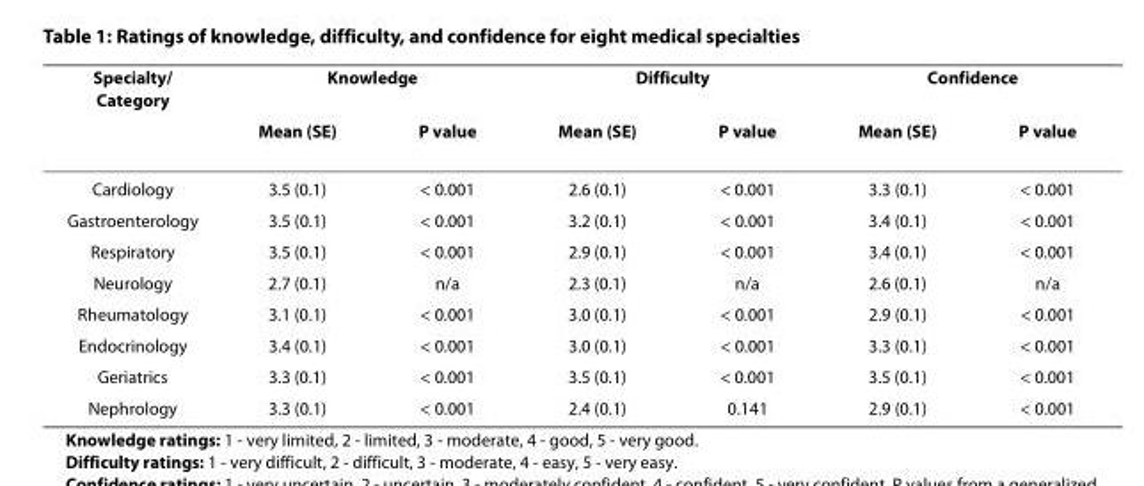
<table><thead><tr><td rowspan="2">Specialty/ Category</td><td colspan="2">Knowledge</td><td colspan="2">Difficulty</td><td colspan="2">Confidence</td></tr><tr><td>Mean (SE)</td><td>P value</td><td>Mean (SE)</td><td>P value</td><td>Mean (SE)</td><td>P value</td></tr></thead><tbody><tr><td>Cardiology</td><td>3.5 (0.1)</td><td>&lt; 0.001</td><td>2.6 (0.1)</td><td>&lt; 0.001</td><td>3.3 (0.1)</td><td>&lt; 0.001</td></tr><tr><td>Gastroenterology</td><td>3.5 (0.1)</td><td>&lt; 0.001</td><td>3.2 (0.1)</td><td>&lt; 0.001</td><td>3.4 (0.1)</td><td>&lt; 0.001</td></tr><tr><td>Respiratory</td><td>3.5 (0.1)</td><td>&lt; 0.001</td><td>2.9 (0.1)</td><td>&lt; 0.001</td><td>3.4 (0.1)</td><td>&lt; 0.001</td></tr><tr><td>Neurology</td><td>2.7 (0.1)</td><td>n/a</td><td>2.3 (0.1)</td><td>n/a</td><td>2.6 (0.1)</td><td>n/a</td></tr><tr><td>Rheumatology</td><td>3.1 (0.1)</td><td>&lt; 0.001</td><td>3.0 (0.1)</td><td>&lt; 0.001</td><td>2.9 (0.1)</td><td>&lt; 0.001</td></tr><tr><td>Endocrinology</td><td>3.4 (0.1)</td><td>&lt; 0.001</td><td>3.0 (0.1)</td><td>&lt; 0.001</td><td>3.3 (0.1)</td><td>&lt; 0.001</td></tr><tr><td>Geriatrics</td><td>3.3 (0.1)</td><td>&lt; 0.001</td><td>3.5 (0.1)</td><td>&lt; 0.001</td><td>3.5 (0.1)</td><td>&lt; 0.001</td></tr><tr><td>Nephrology</td><td>3.3 (0.1)</td><td>&lt; 0.001</td><td>2.4 (0.1)</td><td>0.141</td><td>2.9 (0.1)</td><td>&lt; 0.001</td></tr></tbody></table>